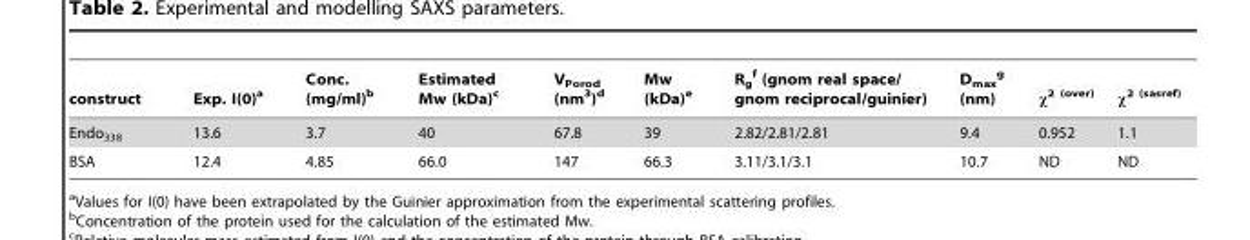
<table><thead><tr><td>construct</td><td>Exp. I(0)<sup>a</sup></td><td>Conc. (mg/ml)<sup>b</sup></td><td>Estimated Mw (kDa)<sup>c</sup></td><td>V<sub>Porod</sub> (nm<sup>3</sup>)<sup>d</sup></td><td>Mw (kDa)<sup>e</sup></td><td>R<sub>g</sub> f (gnom real space/ gnom reciprocal/guinier)</td><td>D<sub>max</sub> g (nm)</td><td>χ<sup>2 (over)</sup></td><td>χ<sup>2 (sasref)</sup></td></tr></thead><tbody><tr><td>Endo<sub>338</sub></td><td>13.6</td><td>3.7</td><td>40</td><td>67.8</td><td>39</td><td>2.82/2.81/2.81</td><td>9.4</td><td>0.952</td><td>1.1</td></tr><tr><td>BSA</td><td>12.4</td><td>4.85</td><td>66.0</td><td>147</td><td>66.3</td><td>3.11/3.1/3.1</td><td>10.7</td><td>ND</td><td>ND</td></tr></tbody></table>